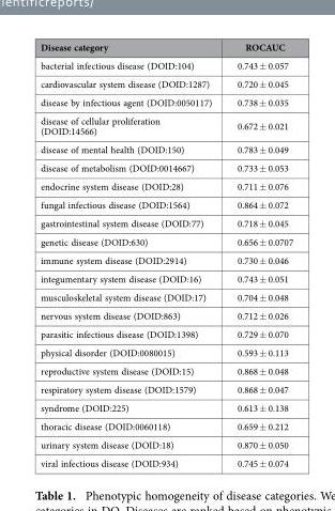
<table><thead><tr><td>Disease category</td><td>ROCAUC</td></tr></thead><tbody><tr><td>bacterial infectious disease (DOID:104)</td><td>0.743 ± 0.057</td></tr><tr><td>cardiovascular system disease (DOID:1287)</td><td>0.720 ± 0.045</td></tr><tr><td>disease by infectious agent (DOID:0050117)</td><td>0.738 ± 0.035</td></tr><tr><td>disease of cellular proliferation (DOID:14566)</td><td>0.672 ± 0.021</td></tr><tr><td>disease of mental health (DOID:150)</td><td>0.783 ± 0.049</td></tr><tr><td>disease of metabolism (DOID:0014667)</td><td>0.733 ± 0.053</td></tr><tr><td>endocrine system disease (DOID:28)</td><td>0.711 ± 0.076</td></tr><tr><td>fungal infectious disease (DOID:1564)</td><td>0.864 ± 0.072</td></tr><tr><td>gastrointestinal system disease (DOID:77)</td><td>0.718 ± 0.045</td></tr><tr><td>genetic disease (DOID:630)</td><td>0.656 ± 0.0707</td></tr><tr><td>immune system disease (DOID:2914)</td><td>0.730 ± 0.046</td></tr><tr><td>integumentary system disease (DOID:16)</td><td>0.743 ± 0.051</td></tr><tr><td>musculoskeletal system disease (DOID:17)</td><td>0.704 ± 0.048</td></tr><tr><td>nervous system disease (DOID:863)</td><td>0.712 ± 0.026</td></tr><tr><td>parasitic infectious disease (DOID:1398)</td><td>0.729 ± 0.070</td></tr><tr><td>physical disorder (DOID:0080015)</td><td>0.593 ± 0.113</td></tr><tr><td>reproductive system disease (DOID:15)</td><td>0.868 ± 0.048</td></tr><tr><td>respiratory system disease (DOID:1579)</td><td>0.868 ± 0.047</td></tr><tr><td>syndrome (DOID:225)</td><td>0.613 ± 0.138</td></tr><tr><td>thoracic disease (DOID:0060118)</td><td>0.659 ± 0.212</td></tr><tr><td>urinary system disease (DOID:18)</td><td>0.870 ± 0.050</td></tr><tr><td>viral infectious disease (DOID:934)</td><td>0.745 ± 0.074</td></tr></tbody></table>